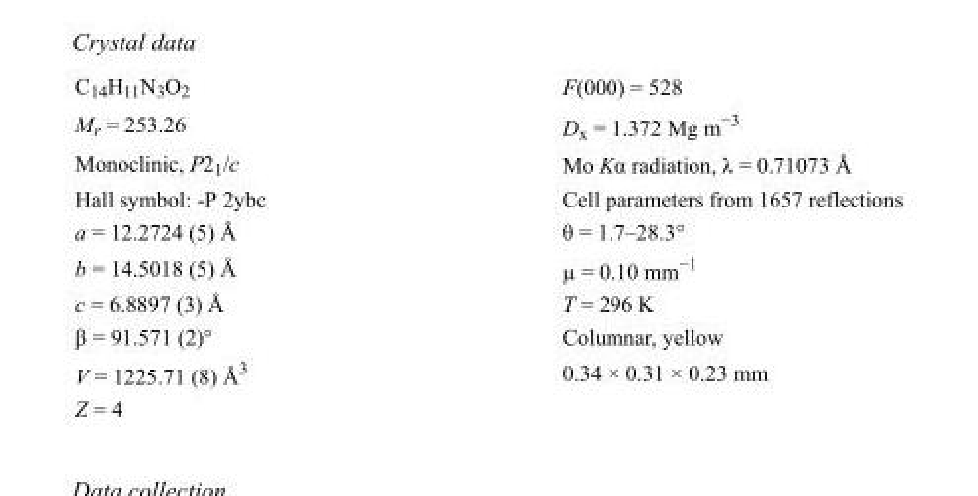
<table><tbody><tr><td>C<sub>14</sub>H<sub>11</sub>N<sub>3</sub>O<sub>2</sub></td><td>F(000) = 528</td></tr><tr><td>M<sub>r</sub> = 253.26</td><td>D<sub>x</sub> = 1.372 Mg m<sup>−3</sup></td></tr><tr><td>Monoclinic, P2<sub>1</sub>/c</td><td>Mo Kα radiation, λ = 0.71073 Å</td></tr><tr><td>Hall symbol: -P 2ybc</td><td>Cell parameters from 1657 reflections</td></tr><tr><td>a = 12.2724 (5) Å</td><td>θ = 1.7–28.3°</td></tr><tr><td>b = 14.5018 (5) Å</td><td>µ = 0.10 mm<sup>−1</sup></td></tr><tr><td>c = 6.8897 (3) Å</td><td>T = 296 K</td></tr><tr><td>β = 91.571 (2)°</td><td>Columnar, yellow</td></tr><tr><td>V = 1225.71 (8) Å<sup>3</sup></td><td>0.34 × 0.31 × 0.23 mm</td></tr><tr><td>Z = 4</td><td></td></tr></tbody></table>